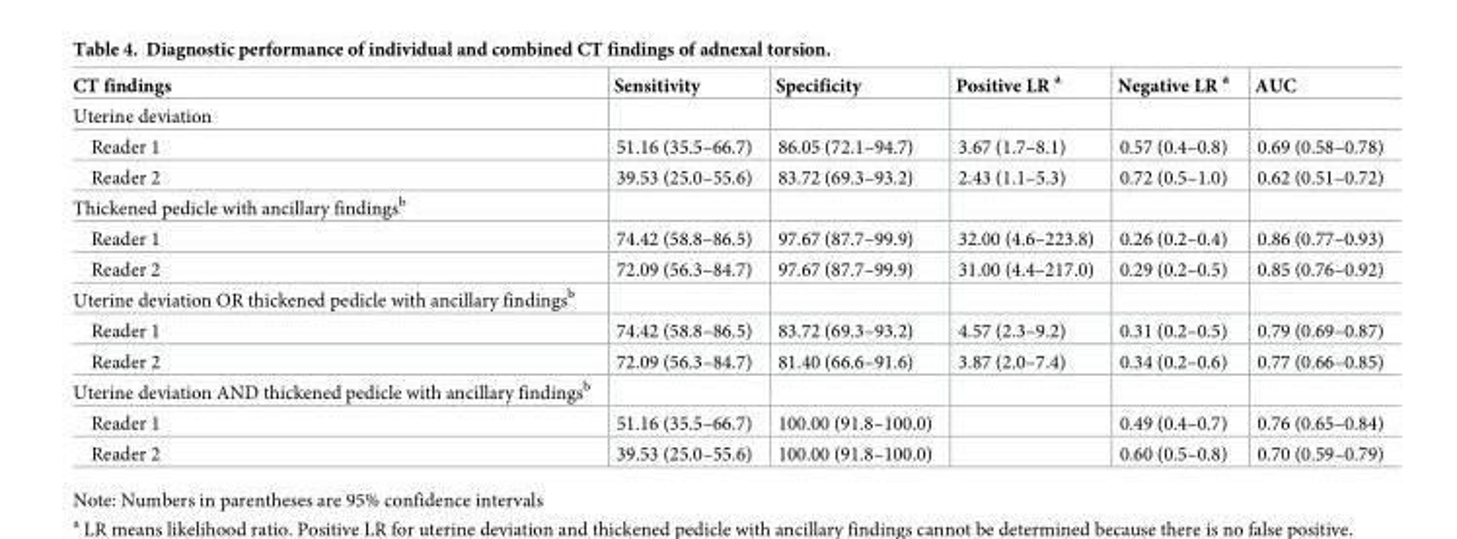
<table><thead><tr><td>CT findings</td><td>Sensitivity</td><td>Specificity</td><td>Positive LR <sup>a</sup></td><td>Negative LR <sup>a</sup></td><td>AUC</td></tr></thead><tbody><tr><td colspan="6">Uterine deviation</td></tr><tr><td>Reader 1</td><td>51.16 (35.5–66.7)</td><td>86.05 (72.1–94.7)</td><td>3.67 (1.7–8.1)</td><td>0.57 (0.4–0.8)</td><td>0.69 (0.58–0.78)</td></tr><tr><td>Reader 2</td><td>39.53 (25.0–55.6)</td><td>83.72 (69.3–93.2)</td><td>2.43 (1.1–5.3)</td><td>0.72 (0.5–1.0)</td><td>0.62 (0.51–0.72)</td></tr><tr><td colspan="6">Thickened pedicle with ancillary findings<sup>b</sup></td></tr><tr><td>Reader 1</td><td>74.42 (58.8–86.5)</td><td>97.67 (87.7–99.9)</td><td>32.00 (4.6–223.8)</td><td>0.26 (0.2–0.4)</td><td>0.86 (0.77–0.93)</td></tr><tr><td>Reader 2</td><td>72.09 (56.3–84.7)</td><td>97.67 (87.7–99.9)</td><td>31.00 (4.4–217.0)</td><td>0.29 (0.2–0.5)</td><td>0.85 (0.76–0.92)</td></tr><tr><td colspan="6">Uterine deviation OR thickened pedicle with ancillary findings<sup>b</sup></td></tr><tr><td>Reader 1</td><td>74.42 (58.8–86.5)</td><td>83.72 (69.3–93.2)</td><td>4.57 (2.3–9.2)</td><td>0.31 (0.2–0.5)</td><td>0.79 (0.69–0.87)</td></tr><tr><td>Reader 2</td><td>72.09 (56.3–84.7)</td><td>81.40 (66.6–91.6)</td><td>3.87 (2.0–7.4)</td><td>0.34 (0.2–0.6)</td><td>0.77 (0.66–0.85)</td></tr><tr><td colspan="6">Uterine deviation AND thickened pedicle with ancillary findings<sup>b</sup></td></tr><tr><td>Reader 1</td><td>51.16 (35.5–66.7)</td><td>100.00 (91.8–100.0)</td><td></td><td>0.49 (0.4–0.7)</td><td>0.76 (0.65–0.84)</td></tr><tr><td>Reader 2</td><td>39.53 (25.0–55.6)</td><td>100.00 (91.8–100.0)</td><td></td><td>0.60 (0.5–0.8)</td><td>0.70 (0.59–0.79)</td></tr></tbody></table>